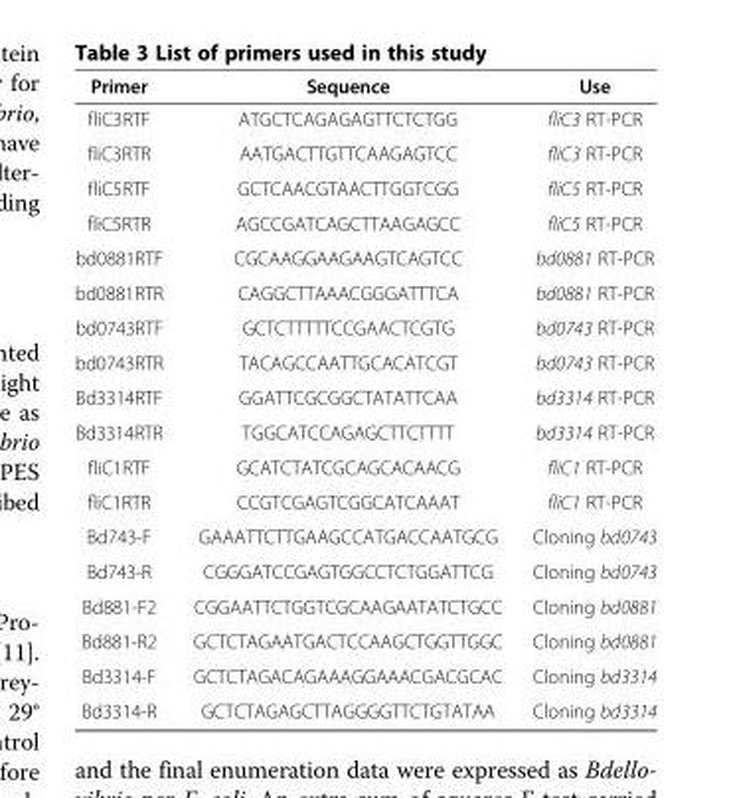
<table><thead><tr><td>Primer</td><td>Sequence</td><td>Use</td></tr></thead><tbody><tr><td>fliC3RTF</td><td>ATGCTCAGAGAGTTCTCTGG</td><td>fliC3 RT-PCR</td></tr><tr><td>fliC3RTR</td><td>AATGACTTGTTCAAGAGTCC</td><td>fliC3 RT-PCR</td></tr><tr><td>fliC5RTF</td><td>GCTCAACGTAACTTGGTCGG</td><td>fliC5 RT-PCR</td></tr><tr><td>fliC5RTR</td><td>AGCCGATCAGCTTAAGAGCC</td><td>fliC5 RT-PCR</td></tr><tr><td>bd0881RTF</td><td>CGCAAGGAAGAAGTCAGTCC</td><td>bd0881 RT-PCR</td></tr><tr><td>bd0881RTR</td><td>CAGGCTTAAACGGGATTTCA</td><td>bd0881 RT-PCR</td></tr><tr><td>bd0743RTF</td><td>GCTCTTTTTCCGAACTCGTG</td><td>bd0743 RT-PCR</td></tr><tr><td>bd0743RTR</td><td>TACAGCCAATTGCACATCGT</td><td>bd0743 RT-PCR</td></tr><tr><td>Bd3314RTF</td><td>GGATTCGCGGCTATATTCAA</td><td>bd3314 RT-PCR</td></tr><tr><td>Bd3314RTR</td><td>TGGCATCCAGAGCTTCTTTT</td><td>bd3314 RT-PCR</td></tr><tr><td>fliC1RTF</td><td>GCATCTATCGCAGCACAACG</td><td>fliC1 RT-PCR</td></tr><tr><td>fliC1RTR</td><td>CCGTCGAGTCGGCATCAAAT</td><td>fliC1 RT-PCR</td></tr><tr><td>Bd743-F</td><td>GAAATTCTTGAAGCCATGACCAATGCG</td><td>Cloning bd0743</td></tr><tr><td>Bd743-R</td><td>CGGGATCCGAGTGGCCTCTGGATTCG</td><td>Cloning bd0743</td></tr><tr><td>Bd881-F2</td><td>CGGAATTCTGGTCGCAAGAATATCTGCC</td><td>Cloning bd0881</td></tr><tr><td>Bd881-R2</td><td>GCTCTAGAATGACTCCAAGCTGGTTGGC</td><td>Cloning bd0881</td></tr><tr><td>Bd3314-F</td><td>GCTCTAGACAGAAAGGAAACGACGCAC</td><td>Cloning bd3314</td></tr><tr><td>Bd3314-R</td><td>GCTCTAGAGCTTAGGGGTTCTGTATAA</td><td>Cloning bd3314</td></tr></tbody></table>